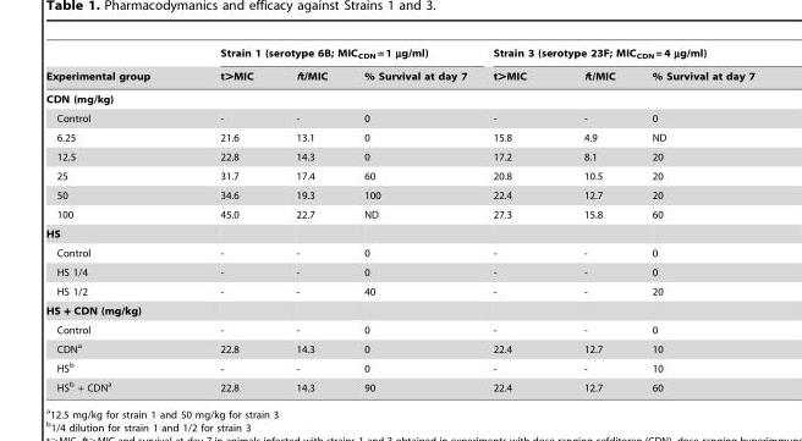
<table><thead><tr><td rowspan="2">Experimental group</td><td colspan="3">Strain 1 (serotype 6B; MIC<sub>CDN</sub> = 1 µg/ml)</td><td colspan="3">Strain 3 (serotype 23F; MIC<sub>CDN</sub> = 4 µg/ml)</td></tr><tr><td>t&gt;MIC</td><td>ft/MIC</td><td>% Survival at day 7</td><td>t&gt;MIC</td><td>ft/MIC</td><td>% Survival at day 7</td></tr></thead><tbody><tr><td colspan="7">CDN (mg/kg)</td></tr><tr><td>Control</td><td>-</td><td>-</td><td>0</td><td>-</td><td>-</td><td>0</td></tr><tr><td>6.25</td><td>21.6</td><td>13.1</td><td>0</td><td>15.8</td><td>4.9</td><td>ND</td></tr><tr><td>12.5</td><td>22.8</td><td>14.3</td><td>0</td><td>17.2</td><td>8.1</td><td>20</td></tr><tr><td>25</td><td>31.7</td><td>17.4</td><td>60</td><td>20.8</td><td>10.5</td><td>20</td></tr><tr><td>50</td><td>34.6</td><td>19.3</td><td>100</td><td>22.4</td><td>12.7</td><td>20</td></tr><tr><td>100</td><td>45.0</td><td>22.7</td><td>ND</td><td>27.3</td><td>15.8</td><td>60</td></tr><tr><td colspan="7">HS</td></tr><tr><td>Control</td><td>-</td><td>-</td><td>0</td><td>-</td><td>-</td><td>0</td></tr><tr><td>HS 1/4</td><td>-</td><td>-</td><td>0</td><td>-</td><td>-</td><td>0</td></tr><tr><td>HS 1/2</td><td>-</td><td>-</td><td>40</td><td>-</td><td>-</td><td>20</td></tr><tr><td colspan="7">HS + CDN (mg/kg)</td></tr><tr><td>Control</td><td>-</td><td>-</td><td>0</td><td>-</td><td>-</td><td>0</td></tr><tr><td>CDN<sup>a</sup></td><td>22.8</td><td>14.3</td><td>0</td><td>22.4</td><td>12.7</td><td>10</td></tr><tr><td>HS<sup>b</sup></td><td>-</td><td>-</td><td>0</td><td>-</td><td>-</td><td>10</td></tr><tr><td>HS<sup>b</sup> + CDN<sup>a</sup></td><td>22.8</td><td>14.3</td><td>90</td><td>22.4</td><td>12.7</td><td>60</td></tr></tbody></table>